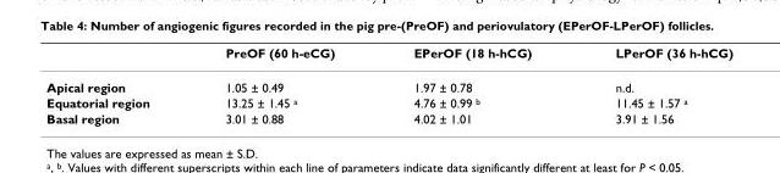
<table><thead><tr><td></td><td>PreOF (60 h-eCG)</td><td>EPerOF (18 h-hCG)</td><td>LPerOF (36 h-hCG)</td></tr></thead><tbody><tr><td>Apical region</td><td>1.05 ± 0.49</td><td>1.97 ± 0.78</td><td>n.d.</td></tr><tr><td>Equatorial region</td><td>13.25 ± 1.45 <sup>a</sup></td><td>4.76 ± 0.99 <sup>b</sup></td><td>11.45 ± 1.57 <sup>a</sup></td></tr><tr><td>Basal region</td><td>3.01 ± 0.88</td><td>4.02 ± 1.01</td><td>3.91 ± 1.56</td></tr></tbody></table>